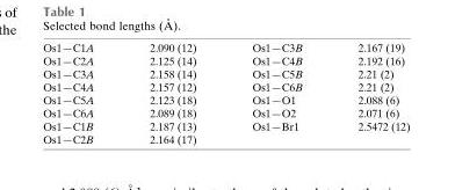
<table><tbody><tr><td>Os1—C1A</td><td>2.090 (12)</td><td>Os1—C3B</td><td>2.167 (19)</td></tr><tr><td>Os1—C2A</td><td>2.125 (14)</td><td>Os1—C4B</td><td>2.192 (16)</td></tr><tr><td>Os1—C3A</td><td>2.158 (14)</td><td>Os1—C5B</td><td>2.21 (2)</td></tr><tr><td>Os1—C4A</td><td>2.157 (12)</td><td>Os1—C6B</td><td>2.21 (2)</td></tr><tr><td>Os1—C5A</td><td>2.123 (18)</td><td>Os1—O1</td><td>2.088 (6)</td></tr><tr><td>Os1—C6A</td><td>2.089 (18)</td><td>Os1—O2</td><td>2.071 (6)</td></tr><tr><td>Os1—C1B</td><td>2.187 (13)</td><td>Os1—Br1</td><td>2.5472 (12)</td></tr><tr><td>Os1—C2B</td><td>2.164 (17)</td><td></td><td></td></tr></tbody></table>